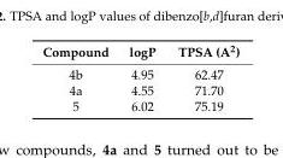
<table><thead><tr><td>Compound</td><td>logP</td><td>TPSA (A<sup>2</sup>)</td></tr></thead><tbody><tr><td>4b</td><td>4.95</td><td>62.47</td></tr><tr><td>4a</td><td>4.55</td><td>71.70</td></tr><tr><td>5</td><td>6.02</td><td>75.19</td></tr></tbody></table>